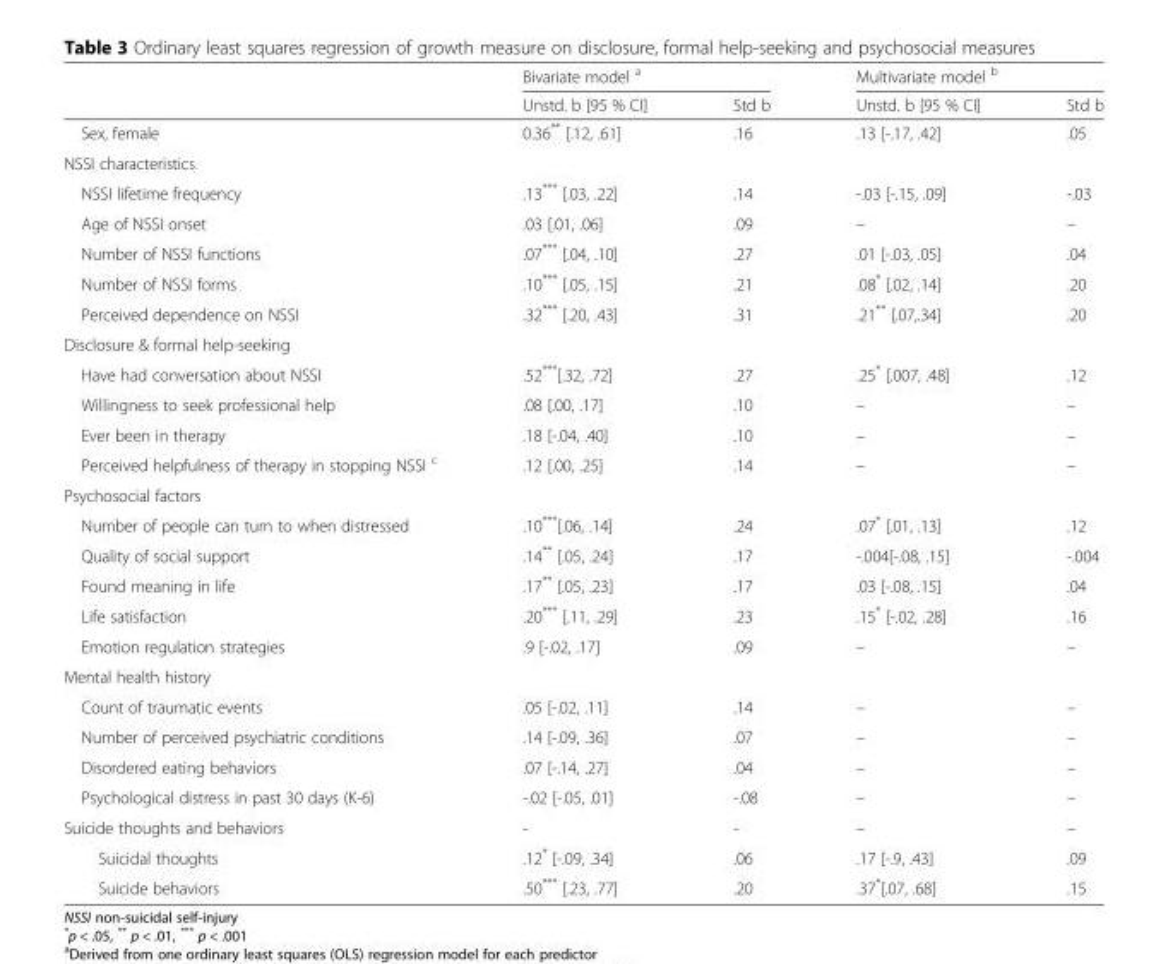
<table><thead><tr><td rowspan="2"></td><td colspan="2">Bivariate model <sup>a</sup></td><td colspan="2">Multivariate model <sup>b</sup></td></tr><tr><td>Unstd. b [95 % CI]</td><td>Std b</td><td>Unstd. b [95 % CI]</td><td>Std b</td></tr></thead><tbody><tr><td>Sex, female</td><td>0.36** [.12, .61]</td><td>.16</td><td>.13 [-.17, .42]</td><td>.05</td></tr><tr><td colspan="5">NSSI characteristics</td></tr><tr><td>NSSI lifetime frequency</td><td>.13*** [.03, .22]</td><td>.14</td><td>-.03 [-.15, .09]</td><td>-.03</td></tr><tr><td>Age of NSSI onset</td><td>.03 [.01, .06]</td><td>.09</td><td>–</td><td>–</td></tr><tr><td>Number of NSSI functions</td><td>.07*** [.04, .10]</td><td>.27</td><td>.01 [-.03, .05]</td><td>.04</td></tr><tr><td>Number of NSSI forms</td><td>.10*** [.05, .15]</td><td>.21</td><td>.08* [.02, .14]</td><td>.20</td></tr><tr><td>Perceived dependence on NSSI</td><td>.32*** [.20, .43]</td><td>.31</td><td>.21** [.07,.34]</td><td>.20</td></tr><tr><td colspan="5">Disclosure &amp; formal help-seeking</td></tr><tr><td>Have had conversation about NSSI</td><td>.52***[.32, .72]</td><td>.27</td><td>.25* [.007, .48]</td><td>.12</td></tr><tr><td>Willingness to seek professional help</td><td>.08 [.00, .17]</td><td>.10</td><td>–</td><td>–</td></tr><tr><td>Ever been in therapy</td><td>.18 [-.04, .40]</td><td>.10</td><td>–</td><td>–</td></tr><tr><td>Perceived helpfulness of therapy in stopping NSSI <sup>c</sup></td><td>.12 [.00, .25]</td><td>.14</td><td>–</td><td>–</td></tr><tr><td colspan="5">Psychosocial factors</td></tr><tr><td>Number of people can turn to when distressed</td><td>.10***[.06, .14]</td><td>.24</td><td>.07* [.01, .13]</td><td>.12</td></tr><tr><td>Quality of social support</td><td>.14** [.05, .24]</td><td>.17</td><td>-.004[-.08, .15]</td><td>-.004</td></tr><tr><td>Found meaning in life</td><td>.17** [.05, .23]</td><td>.17</td><td>.03 [-.08, .15]</td><td>.04</td></tr><tr><td>Life satisfaction</td><td>.20*** [.11, .29]</td><td>.23</td><td>.15* [-.02, .28]</td><td>.16</td></tr><tr><td>Emotion regulation strategies</td><td>.9 [-.02, .17]</td><td>.09</td><td>–</td><td>–</td></tr><tr><td colspan="5">Mental health history</td></tr><tr><td>Count of traumatic events</td><td>.05 [-.02, .11]</td><td>.14</td><td>–</td><td>–</td></tr><tr><td>Number of perceived psychiatric conditions</td><td>.14 [-.09, .36]</td><td>.07</td><td>–</td><td>–</td></tr><tr><td>Disordered eating behaviors</td><td>.07 [-.14, .27]</td><td>.04</td><td>–</td><td>–</td></tr><tr><td>Psychological distress in past 30 days (K-6)</td><td>-.02 [-.05, .01]</td><td>-.08</td><td>–</td><td>–</td></tr><tr><td>Suicide thoughts and behaviors</td><td>-</td><td>-</td><td>–</td><td>–</td></tr><tr><td>Suicidal thoughts</td><td>.12* [-.09, .34]</td><td>.06</td><td>.17 [-.9, .43]</td><td>.09</td></tr><tr><td>Suicide behaviors</td><td>.50*** [.23, .77]</td><td>.20</td><td>.37*[.07, .68]</td><td>.15</td></tr></tbody></table>